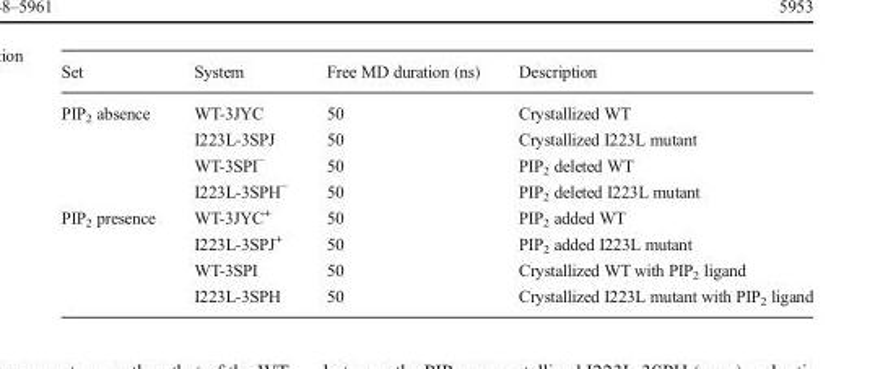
<table><thead><tr><td>Set</td><td>System</td><td>Free MD duration (ns)</td><td>Description</td></tr></thead><tbody><tr><td rowspan="4">PIP<sub>2</sub> absence</td><td>WT-3JYC</td><td>50</td><td>Crystallized WT</td></tr><tr><td>I223L-3SPJ</td><td>50</td><td>Crystallized I223L mutant</td></tr><tr><td>WT-3SPI<sup>−</sup></td><td>50</td><td>PIP<sub>2</sub> deleted WT</td></tr><tr><td>I223L-3SPH<sup>−</sup></td><td>50</td><td>PIP<sub>2</sub> deleted I223L mutant</td></tr><tr><td rowspan="4">PIP<sub>2</sub> presence</td><td>WT-3JYC<sup>+</sup></td><td>50</td><td>PIP<sub>2</sub> added WT</td></tr><tr><td>I223L-3SPJ<sup>+</sup></td><td>50</td><td>PIP<sub>2</sub> added I223L mutant</td></tr><tr><td>WT-3SPI</td><td>50</td><td>Crystallized WT with PIP<sub>2</sub> ligand</td></tr><tr><td>I223L-3SPH</td><td>50</td><td>Crystallized I223L mutant with PIP<sub>2</sub> ligand</td></tr></tbody></table>